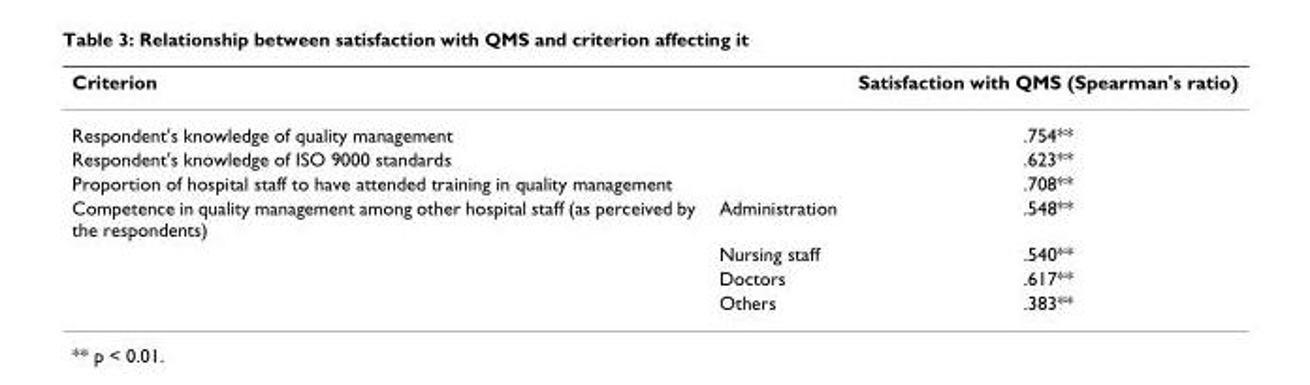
<table><thead><tr><td colspan="2">Criterion</td><td>Satisfaction with QMS (Spearman&#x27;s ratio)</td></tr></thead><tbody><tr><td colspan="2">Respondent&#x27;s knowledge of quality management</td><td>.754**</td></tr><tr><td colspan="2">Respondent&#x27;s knowledge of ISO 9000 standards</td><td>.623**</td></tr><tr><td colspan="2">Proportion of hospital staff to have attended training in quality management</td><td>.708**</td></tr><tr><td rowspan="4">Competence in quality management among other hospital staff (as perceived by the respondents)</td><td>Administration</td><td>.548**</td></tr><tr><td>Nursing staff</td><td>.540**</td></tr><tr><td>Doctors</td><td>.617**</td></tr><tr><td>Others</td><td>.383**</td></tr></tbody></table>